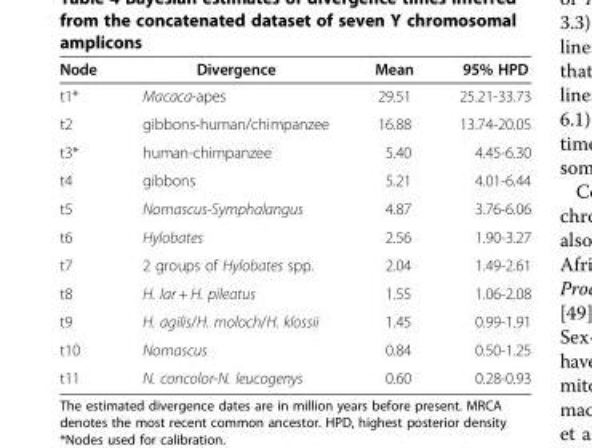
<table><thead><tr><td>Node</td><td>Divergence</td><td>Mean</td><td>95% HPD</td></tr></thead><tbody><tr><td>t1*</td><td>Macaca-apes</td><td>29.51</td><td>25.21-33.73</td></tr><tr><td>t2</td><td>gibbons-human/chimpanzee</td><td>16.88</td><td>13.74-20.05</td></tr><tr><td>t3*</td><td>human-chimpanzee</td><td>5.40</td><td>4.45-6.30</td></tr><tr><td>t4</td><td>gibbons</td><td>5.21</td><td>4.01-6.44</td></tr><tr><td>t5</td><td>Nomascus-Symphalangus</td><td>4.87</td><td>3.76-6.06</td></tr><tr><td>t6</td><td>Hylobates</td><td>2.56</td><td>1.90-3.27</td></tr><tr><td>t7</td><td>2 groups of Hylobates spp.</td><td>2.04</td><td>1.49-2.61</td></tr><tr><td>t8</td><td>H. lar + H. pileatus</td><td>1.55</td><td>1.06-2.08</td></tr><tr><td>t9</td><td>H. agilis/H. moloch/H. klossii</td><td>1.45</td><td>0.99-1.91</td></tr><tr><td>t10</td><td>Nomascus</td><td>0.84</td><td>0.50-1.25</td></tr><tr><td>t11</td><td>N. concolor-N. leucogenys</td><td>0.60</td><td>0.28-0.93</td></tr></tbody></table>